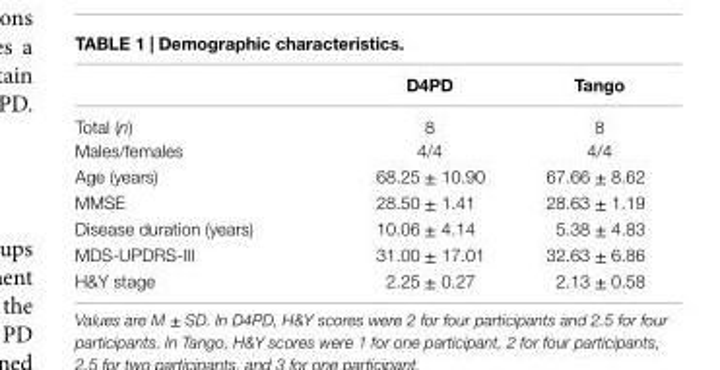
<table><thead><tr><td></td><td>D4PD</td><td>Tango</td></tr></thead><tbody><tr><td>Total (n)</td><td>8</td><td>8</td></tr><tr><td>Males/females</td><td>4/4</td><td>4/4</td></tr><tr><td>Age (years)</td><td>68.25 ± 10.90</td><td>67.66 ± 8.62</td></tr><tr><td>MMSE</td><td>28.50 ± 1.41</td><td>28.63 ± 1.19</td></tr><tr><td>Disease duration (years)</td><td>10.06 ± 4.14</td><td>5.38 ± 4.83</td></tr><tr><td>MDS-UPDRS-III</td><td>31.00 ± 17.01</td><td>32.63 ± 6.86</td></tr><tr><td>H&amp;Y stage</td><td>2.25 ± 0.27</td><td>2.13 ± 0.58</td></tr></tbody></table>